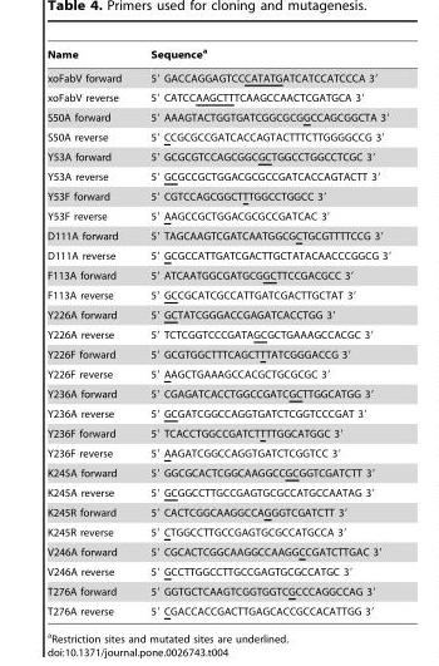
<table><thead><tr><td>Name</td><td>Sequence<sup>a</sup></td></tr></thead><tbody><tr><td>xoFabV forward</td><td>5′ GACCAGGAGTCCCATATGATCATCCATCCCA 3′</td></tr><tr><td>xoFabV reverse</td><td>5′ CATCCAAGCTTTCAAGCCAACTCGATGCA 3′</td></tr><tr><td>S50A forward</td><td>5′ AAAGTACTGGTGATCGGCGCGGCCAGCGGCTA 3′</td></tr><tr><td>S50A reverse</td><td>5′ CCGCGCCGATCACCAGTACTTTCTTGGGGCCG 3′</td></tr><tr><td>Y53A forward</td><td>5′ GCGCGTCCAGCGGCGCTGGCCTGGCCTCGC 3′</td></tr><tr><td>Y53A reverse</td><td>5′ GCGCCGCTGGACGCGCCGATCACCAGTACTT 3′</td></tr><tr><td>Y53F forward</td><td>5′ CGTCCAGCGGCTTTGGCCTGGCC 3′</td></tr><tr><td>Y53F reverse</td><td>5′ AAGCCGCTGGACGCGCCGATCAC 3′</td></tr><tr><td>D111A forward</td><td>5′ TAGCAAGTCGATCAATGGCGCTGCGTTTTCCG 3′</td></tr><tr><td>D111A reverse</td><td>5′ GCGCCATTGATCGACTTGCTATACAACCCGGCG 3′</td></tr><tr><td>F113A forward</td><td>5′ ATCAATGGCGATGCGGCTTCCGACGCC 3′</td></tr><tr><td>F113A reverse</td><td>5′ GCCGCATCGCCATTGATCGACTTGCTAT 3′</td></tr><tr><td>Y226A forward</td><td>5′ GCTATCGGGACCGAGATCACCTGG 3′</td></tr><tr><td>Y226A reverse</td><td>5′ TCTCGGTCCCGATAGCGCTGAAAGCCACGC 3′</td></tr><tr><td>Y226F forward</td><td>5′ GCGTGGCTTTCAGCTTTATCGGGACCG 3′</td></tr><tr><td>Y226F reverse</td><td>5′ AAGCTGAAAGCCACGCTGCGCGC 3′</td></tr><tr><td>Y236A forward</td><td>5′ CGAGATCACCTGGCCGATCGCTTGGCATGG 3′</td></tr><tr><td>Y236A reverse</td><td>5′ GCGATCGGCCAGGTGATCTCGGTCCCGAT 3′</td></tr><tr><td>Y236F forward</td><td>5′ TCACCTGGCCGATCTTTTGGCATGGC 3′</td></tr><tr><td>Y236F reverse</td><td>5′ AAGATCGGCCAGGTGATCTCGGTCC 3′</td></tr><tr><td>K245A forward</td><td>5′ GGCGCACTCGGCAAGGCCGCGGTCGATCTT 3′</td></tr><tr><td>K245A reverse</td><td>5′ GCGGCCTTGCCGAGTGCGCCATGCCAATAG 3′</td></tr><tr><td>K245R forward</td><td>5′ CACTCGGCAAGGCCAGGGTCGATCTT 3′</td></tr><tr><td>K245R reverse</td><td>5′ CTGGCCTTGCCGAGTGCGCCATGCCA 3′</td></tr><tr><td>V246A forward</td><td>5′ CGCACTCGGCAAGGCCAAGGCCGATCTTGAC 3′</td></tr><tr><td>V246A reverse</td><td>5′ GCCTTGGCCTTGCCGAGTGCGCCATGC 3′</td></tr><tr><td>T276A forward</td><td>5′ GGTGCTCAAGTCGGTGGTCGCCCAGGCCAG 3′</td></tr><tr><td>T276A reverse</td><td>5′ CGACCACCGACTTGAGCACCGCCACATTGG 3′</td></tr></tbody></table>